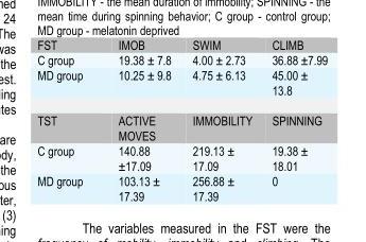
<table><tbody><tr><td>FST</td><td>IMOB</td><td>SWIM</td><td>CLIMB</td></tr><tr><td>C group</td><td>19.38 ± 7.8</td><td>4.00 ± 2.73</td><td>36.88 ±7.99</td></tr><tr><td>MD group</td><td>10.25 ± 9.8</td><td>4.75 ± 6.13</td><td>45.00 ± 13.8</td></tr><tr><td>TST</td><td>ACTIVE MOVES</td><td>IMMOBILITY</td><td>SPINNING</td></tr><tr><td>C group</td><td>140.88 ±17.09</td><td>219.13 ± 17.09</td><td>19.38 ± 18.01</td></tr><tr><td>MD group</td><td>103.13 ± 17.39</td><td>256.88 ± 17.39</td><td>0</td></tr></tbody></table>